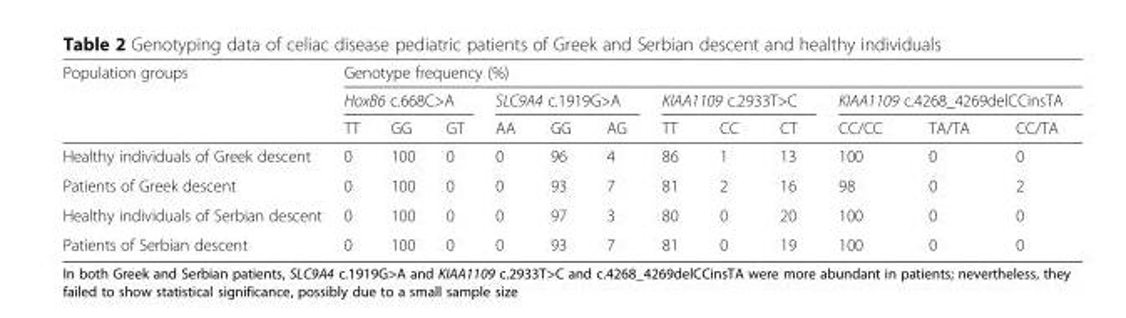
<table><thead><tr><td rowspan="3">Population groups</td><td colspan="12">Genotype frequency (%)</td></tr><tr><td colspan="3">HoxB6 c.668C&gt;A</td><td colspan="3">SLC9A4 c.1919G&gt;A</td><td colspan="3">KIAA1109 c.2933T&gt;C</td><td colspan="3">KIAA1109 c.4268_4269delCCinsTA</td></tr><tr><td>TT</td><td>GG</td><td>GT</td><td>AA</td><td>GG</td><td>AG</td><td>TT</td><td>CC</td><td>CT</td><td>CC/CC</td><td>TA/TA</td><td>CC/TA</td></tr></thead><tbody><tr><td>Healthy individuals of Greek descent</td><td>0</td><td>100</td><td>0</td><td>0</td><td>96</td><td>4</td><td>86</td><td>1</td><td>13</td><td>100</td><td>0</td><td>0</td></tr><tr><td>Patients of Greek descent</td><td>0</td><td>100</td><td>0</td><td>0</td><td>93</td><td>7</td><td>81</td><td>2</td><td>16</td><td>98</td><td>0</td><td>2</td></tr><tr><td>Healthy individuals of Serbian descent</td><td>0</td><td>100</td><td>0</td><td>0</td><td>97</td><td>3</td><td>80</td><td>0</td><td>20</td><td>100</td><td>0</td><td>0</td></tr><tr><td>Patients of Serbian descent</td><td>0</td><td>100</td><td>0</td><td>0</td><td>93</td><td>7</td><td>81</td><td>0</td><td>19</td><td>100</td><td>0</td><td>0</td></tr></tbody></table>